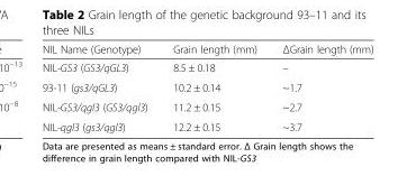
<table><thead><tr><td>NIL Name (Genotype)</td><td>Grain length (mm)</td><td>ΔGrain length (mm)</td></tr></thead><tbody><tr><td>NIL-GS3 (GS3/qGL3)</td><td>8.5 ± 0.18</td><td>–</td></tr><tr><td>93-11 (gs3/qGL3)</td><td>10.2 ± 0.14</td><td>~1.7</td></tr><tr><td>NIL-GS3/qgl3 (GS3/qgl3)</td><td>11.2 ± 0.15</td><td>~2.7</td></tr><tr><td>NIL-qgl3 (gs3/qgl3)</td><td>12.2 ± 0.15</td><td>~3.7</td></tr></tbody></table>